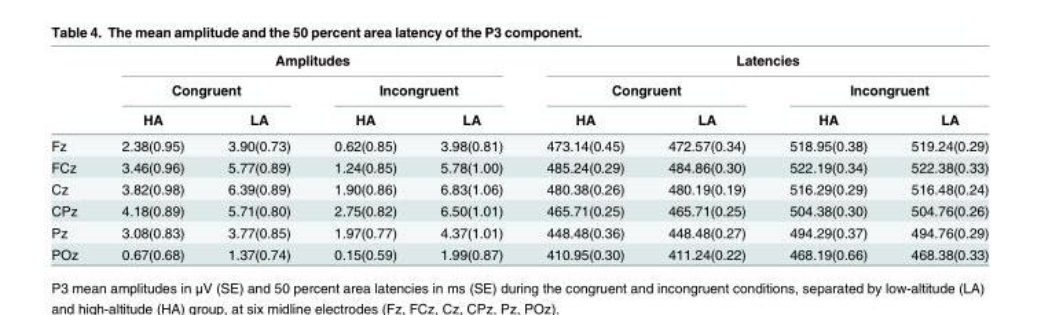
<table><thead><tr><td rowspan="3"></td><td colspan="4">Amplitudes</td><td colspan="4">Latencies</td></tr><tr><td colspan="2">Congruent</td><td colspan="2">Incongruent</td><td colspan="2">Congruent</td><td colspan="2">Incongruent</td></tr><tr><td>HA</td><td>LA</td><td>HA</td><td>LA</td><td>HA</td><td>LA</td><td>HA</td><td>LA</td></tr></thead><tbody><tr><td>Fz</td><td>2.38(0.95)</td><td>3.90(0.73)</td><td>0.62(0.85)</td><td>3.98(0.81)</td><td>473.14(0.45)</td><td>472.57(0.34)</td><td>518.95(0.38)</td><td>519.24(0.29)</td></tr><tr><td>FCz</td><td>3.46(0.96)</td><td>5.77(0.89)</td><td>1.24(0.85)</td><td>5.78(1.00)</td><td>485.24(0.29)</td><td>484.86(0.30)</td><td>522.19(0.34)</td><td>522.38(0.33)</td></tr><tr><td>Cz</td><td>3.82(0.98)</td><td>6.39(0.89)</td><td>1.90(0.86)</td><td>6.83(1.06)</td><td>480.38(0.26)</td><td>480.19(0.19)</td><td>516.29(0.29)</td><td>516.48(0.24)</td></tr><tr><td>CPz</td><td>4.18(0.89)</td><td>5.71(0.80)</td><td>2.75(0.82)</td><td>6.50(1.01)</td><td>465.71(0.25)</td><td>465.71(0.25)</td><td>504.38(0.30)</td><td>504.76(0.26)</td></tr><tr><td>Pz</td><td>3.08(0.83)</td><td>3.77(0.85)</td><td>1.97(0.77)</td><td>4.37(1.01)</td><td>448.48(0.36)</td><td>448.48(0.27)</td><td>494.29(0.37)</td><td>494.76(0.29)</td></tr><tr><td>POz</td><td>0.67(0.68)</td><td>1.37(0.74)</td><td>0.15(0.59)</td><td>1.99(0.87)</td><td>410.95(0.30)</td><td>411.24(0.22)</td><td>468.19(0.66)</td><td>468.38(0.33)</td></tr></tbody></table>